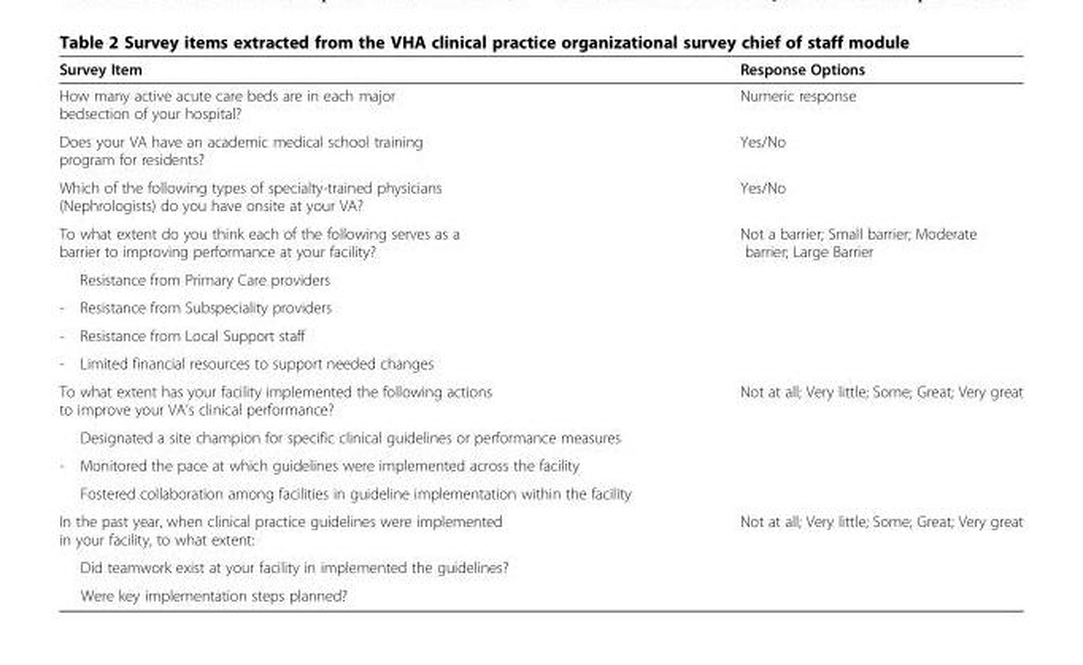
<table><thead><tr><td>Survey Item</td><td>Response Options</td></tr></thead><tbody><tr><td>How many active acute care beds are in each major bedsection of your hospital?</td><td>Numeric response</td></tr><tr><td>Does your VA have an academic medical school training program for residents?</td><td>Yes/No</td></tr><tr><td>Which of the following types of specialty-trained physicians (Nephrologists) do you have onsite at your VA?</td><td>Yes/No</td></tr><tr><td>To what extent do you think each of the following serves as a barrier to improving performance at your facility?</td><td rowspan="2">Not a barrier; Small barrier; Moderate barrier; Large Barrier</td></tr><tr><td>Resistance from Primary Care providers</td></tr><tr><td colspan="2">- Resistance from Subspeciality providers</td></tr><tr><td colspan="2">- Resistance from Local Support staff</td></tr><tr><td colspan="2">- Limited financial resources to support needed changes</td></tr><tr><td>To what extent has your facility implemented the following actions to improve your VA’s clinical performance?</td><td>Not at all; Very little; Some; Great; Very great</td></tr><tr><td colspan="2">Designated a site champion for specific clinical guidelines or performance measures</td></tr><tr><td colspan="2">- Monitored the pace at which guidelines were implemented across the facility</td></tr><tr><td colspan="2">Fostered collaboration among facilities in guideline implementation within the facility</td></tr><tr><td>In the past year, when clinical practice guidelines were implemented in your facility, to what extent:</td><td>Not at all; Very little; Some; Great; Very great</td></tr><tr><td colspan="2">Did teamwork exist at your facility in implemented the guidelines?</td></tr><tr><td>Were key implementation steps planned?</td><td></td></tr></tbody></table>